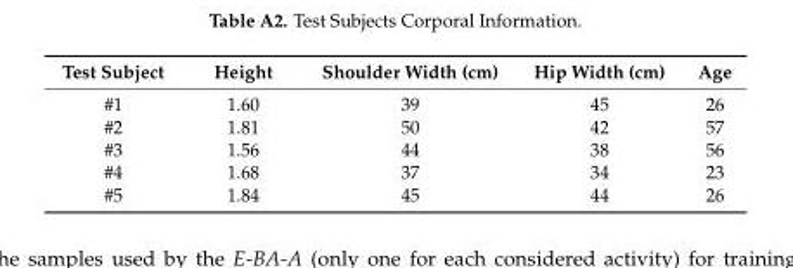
<table><thead><tr><td>Test Subject</td><td>Height</td><td>Shoulder Width (cm)</td><td>Hip Width (cm)</td><td>Age</td></tr></thead><tbody><tr><td>#1</td><td>1.60</td><td>39</td><td>45</td><td>26</td></tr><tr><td>#2</td><td>1.81</td><td>50</td><td>42</td><td>57</td></tr><tr><td>#3</td><td>1.56</td><td>44</td><td>38</td><td>56</td></tr><tr><td>#4</td><td>1.68</td><td>37</td><td>34</td><td>23</td></tr><tr><td>#5</td><td>1.84</td><td>45</td><td>44</td><td>26</td></tr></tbody></table>